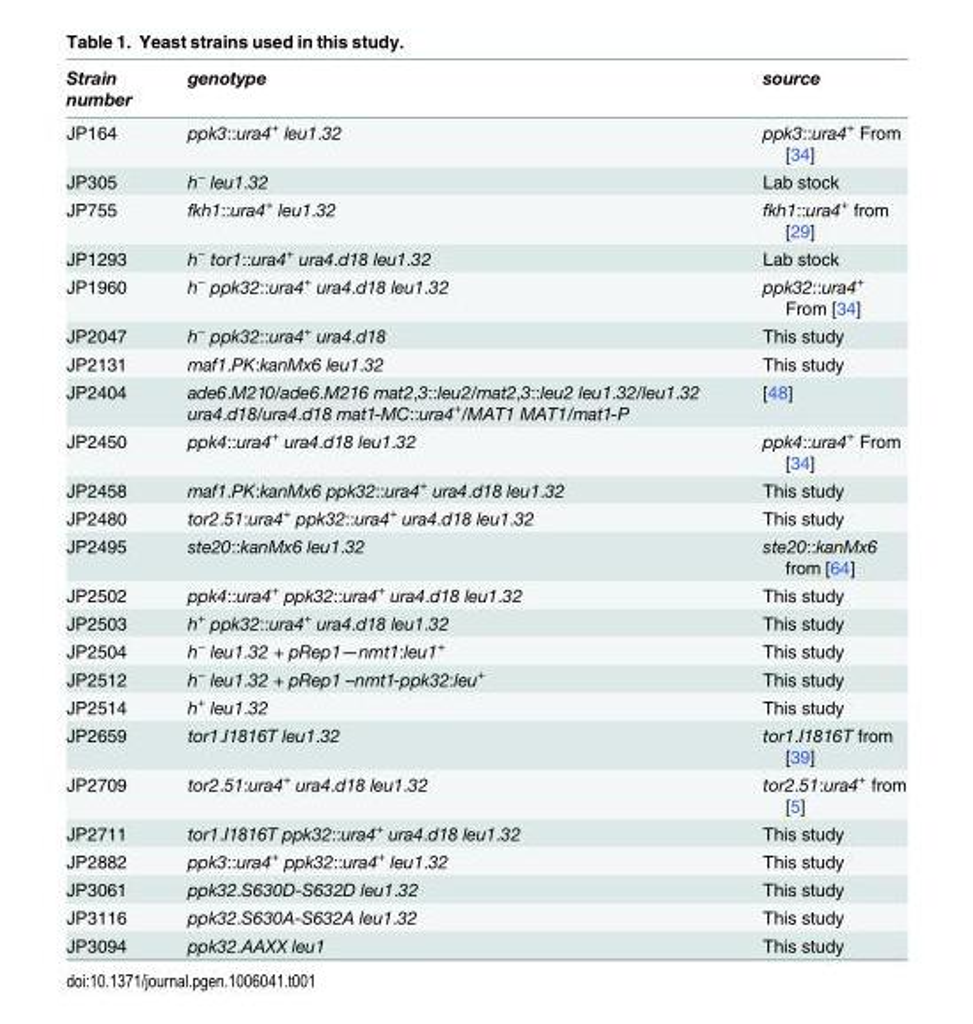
<table><thead><tr><td>Strain number</td><td>genotype</td><td>source</td></tr></thead><tbody><tr><td>JP164</td><td>ppk3::ura4<sup>+</sup> leu1.32</td><td>ppk3::ura4<sup>+</sup> From [34]</td></tr><tr><td>JP305</td><td>h<sup>−</sup> leu1.32</td><td>Lab stock</td></tr><tr><td>JP755</td><td>fkh1::ura4<sup>+</sup> leu1.32</td><td>fkh1::ura4<sup>+</sup> from [29]</td></tr><tr><td>JP1293</td><td>h<sup>−</sup> tor1::ura4<sup>+</sup> ura4.d18 leu1.32</td><td>Lab stock</td></tr><tr><td>JP1960</td><td>h<sup>−</sup> ppk32::ura4<sup>+</sup> ura4.d18 leu1.32</td><td>ppk32::ura4<sup>+</sup> From [34]</td></tr><tr><td>JP2047</td><td>h<sup>−</sup> ppk32::ura4<sup>+</sup> ura4.d18</td><td>This study</td></tr><tr><td>JP2131</td><td>maf1.PK:kanMx6 leu1.32</td><td>This study</td></tr><tr><td>JP2404</td><td>ade6.M210/ade6.M216 mat2,3::leu2/mat2,3::leu2 leu1.32/leu1.32 ura4.d18/ura4.d18 mat1-MC::ura4<sup>+</sup>/MAT1 MAT1/mat1-P</td><td>[48]</td></tr><tr><td>JP2450</td><td>ppk4::ura4<sup>+</sup> ura4.d18 leu1.32</td><td>ppk4::ura4<sup>+</sup> From [34]</td></tr><tr><td>JP2458</td><td>maf1.PK:kanMx6 ppk32::ura4<sup>+</sup> ura4.d18 leu1.32</td><td>This study</td></tr><tr><td>JP2480</td><td>tor2.51:ura4<sup>+</sup> ppk32::ura4<sup>+</sup> ura4.d18 leu1.32</td><td>This study</td></tr><tr><td>JP2495</td><td>ste20::kanMx6 leu1.32</td><td>ste20::kanMx6 from [64]</td></tr><tr><td>JP2502</td><td>ppk4::ura4<sup>+</sup> ppk32::ura4<sup>+</sup> ura4.d18 leu1.32</td><td>This study</td></tr><tr><td>JP2503</td><td>h<sup>+</sup> ppk32::ura4<sup>+</sup> ura4.d18 leu1.32</td><td>This study</td></tr><tr><td>JP2504</td><td>h<sup>−</sup> leu1.32 + pRep1—nmt1:leu1<sup>+</sup></td><td>This study</td></tr><tr><td>JP2512</td><td>h<sup>−</sup> leu1.32 + pRep1 –nmt1-ppk32:leu<sup>+</sup></td><td>This study</td></tr><tr><td>JP2514</td><td>h<sup>+</sup> leu1.32</td><td>This study</td></tr><tr><td>JP2659</td><td>tor1.I1816T leu1.32</td><td>tor1.I1816T from [39]</td></tr><tr><td>JP2709</td><td>tor2.51:ura4<sup>+</sup> ura4.d18 leu1.32</td><td>tor2.51:ura4<sup>+</sup> from [5]</td></tr><tr><td>JP2711</td><td>tor1.I1816T ppk32::ura4<sup>+</sup> ura4.d18 leu1.32</td><td>This study</td></tr><tr><td>JP2882</td><td>ppk3::ura4<sup>+</sup> ppk32::ura4<sup>+</sup> leu1.32</td><td>This study</td></tr><tr><td>JP3061</td><td>ppk32.S630D-S632D leu1.32</td><td>This study</td></tr><tr><td>JP3116</td><td>ppk32.S630A-S632A leu1.32</td><td>This study</td></tr><tr><td>JP3094</td><td>ppk32.AAXX leu1</td><td>This study</td></tr></tbody></table>